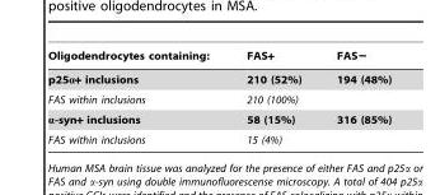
<table><thead><tr><td>Oligodendrocytes containing:</td><td>FAS+</td><td>FAS−</td></tr></thead><tbody><tr><td>p25α+ inclusions</td><td>210 (52%)</td><td>194 (48%)</td></tr><tr><td>FAS within inclusions</td><td>210 (100%)</td><td></td></tr><tr><td>α-syn+ inclusions</td><td>58 (15%)</td><td>316 (85%)</td></tr><tr><td>FAS within inclusions</td><td>15 (4%)</td><td></td></tr></tbody></table>